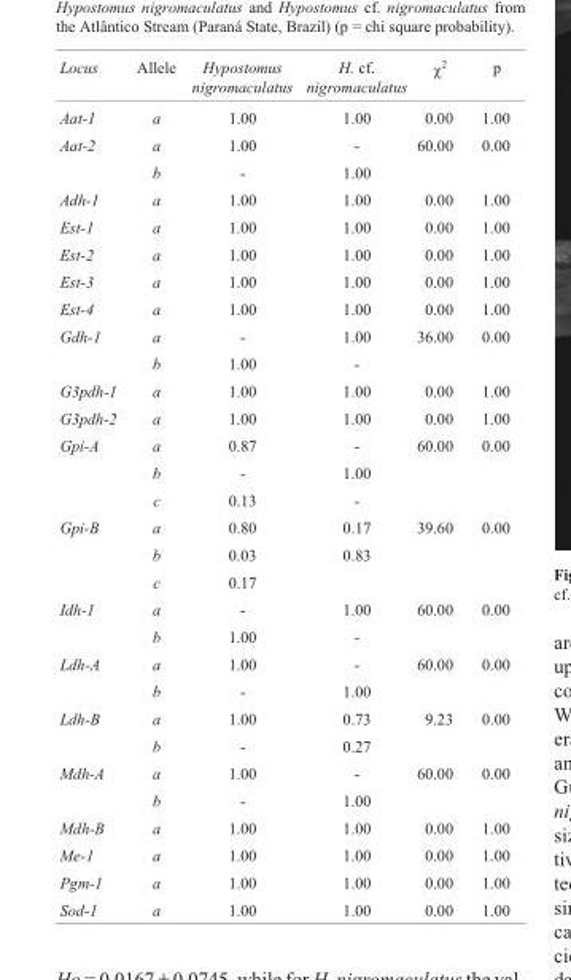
<table><thead><tr><td>Locus</td><td>Allele</td><td>Hypostomus nigromaculatus</td><td>H. cf. nigromaculatus</td><td>χ<sup>2</sup></td><td>p</td></tr></thead><tbody><tr><td>Aat-1</td><td>a</td><td>1.00</td><td>1.00</td><td>0.00</td><td>1.00</td></tr><tr><td rowspan="2">Aat-2</td><td>a</td><td>1.00</td><td>-</td><td>60.00</td><td>0.00</td></tr><tr><td>b</td><td>-</td><td>1.00</td><td></td><td></td></tr><tr><td>Adh-1</td><td>a</td><td>1.00</td><td>1.00</td><td>0.00</td><td>1.00</td></tr><tr><td>Est-1</td><td>a</td><td>1.00</td><td>1.00</td><td>0.00</td><td>1.00</td></tr><tr><td>Est-2</td><td>a</td><td>1.00</td><td>1.00</td><td>0.00</td><td>1.00</td></tr><tr><td>Est-3</td><td>a</td><td>1.00</td><td>1.00</td><td>0.00</td><td>1.00</td></tr><tr><td>Est-4</td><td>a</td><td>1.00</td><td>1.00</td><td>0.00</td><td>1.00</td></tr><tr><td rowspan="2">Gdh-1</td><td>a</td><td>-</td><td>1.00</td><td>36.00</td><td>0.00</td></tr><tr><td>b</td><td>1.00</td><td>-</td><td></td><td></td></tr><tr><td>G3pdh-1</td><td>a</td><td>1.00</td><td>1.00</td><td>0.00</td><td>1.00</td></tr><tr><td>G3pdh-2</td><td>a</td><td>1.00</td><td>1.00</td><td>0.00</td><td>1.00</td></tr><tr><td rowspan="3">Gpi-A</td><td>a</td><td>0.87</td><td>-</td><td>60.00</td><td>0.00</td></tr><tr><td>b</td><td>-</td><td>1.00</td><td></td><td></td></tr><tr><td>c</td><td>0.13</td><td>-</td><td></td><td></td></tr><tr><td rowspan="3">Gpi-B</td><td>a</td><td>0.80</td><td>0.17</td><td>39.60</td><td>0.00</td></tr><tr><td>b</td><td>0.03</td><td>0.83</td><td></td><td></td></tr><tr><td>c</td><td>0.17</td><td></td><td></td><td></td></tr><tr><td rowspan="2">Idh-1</td><td>a</td><td>-</td><td>1.00</td><td>60.00</td><td>0.00</td></tr><tr><td>b</td><td>1.00</td><td>-</td><td></td><td></td></tr><tr><td rowspan="2">Ldh-A</td><td>a</td><td>1.00</td><td>-</td><td>60.00</td><td>0.00</td></tr><tr><td>b</td><td>-</td><td>1.00</td><td></td><td></td></tr><tr><td rowspan="2">Ldh-B</td><td>a</td><td>1.00</td><td>0.73</td><td>9.23</td><td>0.00</td></tr><tr><td>b</td><td>-</td><td>0.27</td><td></td><td></td></tr><tr><td rowspan="2">Mdh-A</td><td>a</td><td>1.00</td><td>-</td><td>60.00</td><td>0.00</td></tr><tr><td>b</td><td>-</td><td>1.00</td><td></td><td></td></tr><tr><td>Mdh-B</td><td>a</td><td>1.00</td><td>1.00</td><td>0.00</td><td>1.00</td></tr><tr><td>Me-1</td><td>a</td><td>1.00</td><td>1.00</td><td>0.00</td><td>1.00</td></tr><tr><td>Pgm-1</td><td>a</td><td>1.00</td><td>1.00</td><td>0.00</td><td>1.00</td></tr><tr><td>Sod-1</td><td>a</td><td>1.00</td><td>1.00</td><td>0.00</td><td>1.00</td></tr></tbody></table>